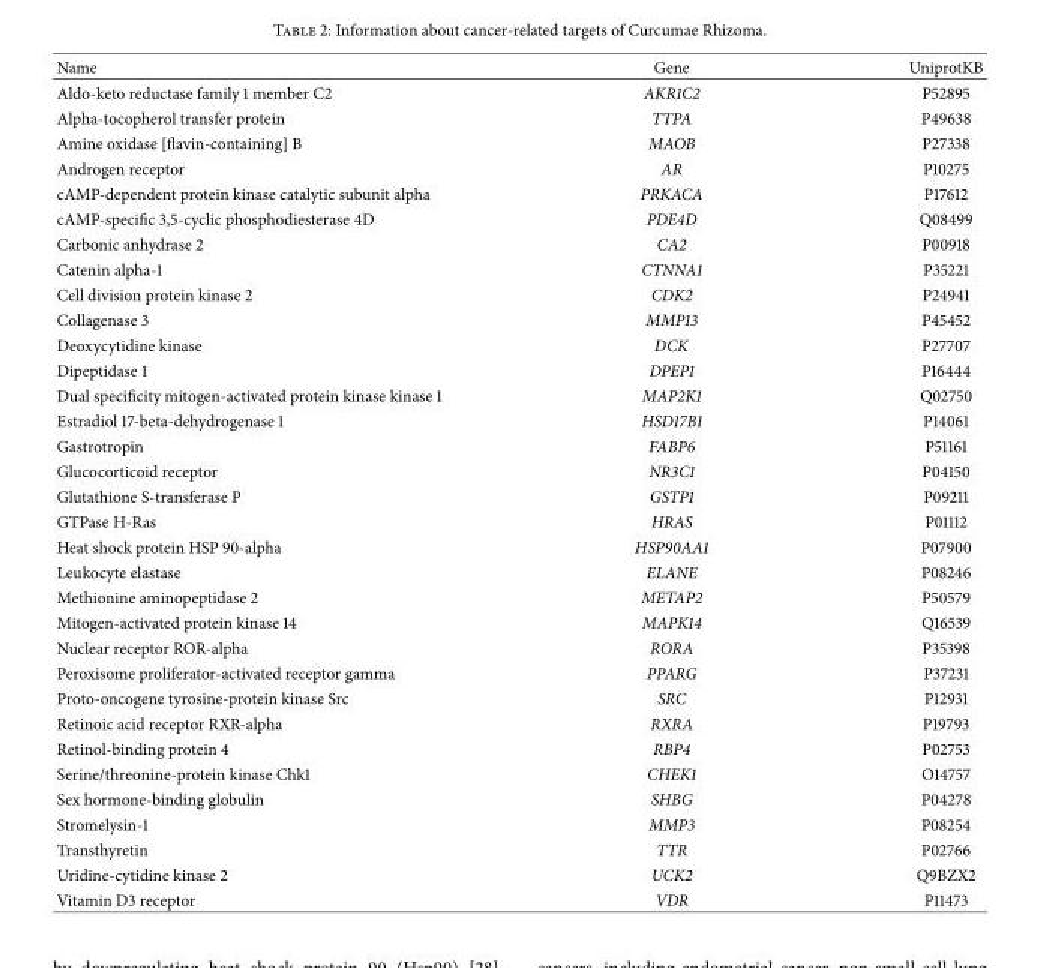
<table><thead><tr><td>Name</td><td>Gene</td><td>UniprotKB</td></tr></thead><tbody><tr><td>Aldo-keto reductase family 1 member C2</td><td>AKR1C2</td><td>P52895</td></tr><tr><td>Alpha-tocopherol transfer protein</td><td>TTPA</td><td>P49638</td></tr><tr><td>Amine oxidase [flavin-containing] B</td><td>MAOB</td><td>P27338</td></tr><tr><td>Androgen receptor</td><td>AR</td><td>P10275</td></tr><tr><td>cAMP-dependent protein kinase catalytic subunit alpha</td><td>PRKACA</td><td>P17612</td></tr><tr><td>cAMP-specific 3,5-cyclic phosphodiesterase 4D</td><td>PDE4D</td><td>Q08499</td></tr><tr><td>Carbonic anhydrase 2</td><td>CA2</td><td>P00918</td></tr><tr><td>Catenin alpha-1</td><td>CTNNA1</td><td>P35221</td></tr><tr><td>Cell division protein kinase 2</td><td>CDK2</td><td>P24941</td></tr><tr><td>Collagenase 3</td><td>MMP13</td><td>P45452</td></tr><tr><td>Deoxycytidine kinase</td><td>DCK</td><td>P27707</td></tr><tr><td>Dipeptidase 1</td><td>DPEP1</td><td>P16444</td></tr><tr><td>Dual specificity mitogen-activated protein kinase kinase 1</td><td>MAP2K1</td><td>Q02750</td></tr><tr><td>Estradiol 17-beta-dehydrogenase 1</td><td>HSD17B1</td><td>P14061</td></tr><tr><td>Gastrotropin</td><td>FABP6</td><td>P51161</td></tr><tr><td>Glucocorticoid receptor</td><td>NR3C1</td><td>P04150</td></tr><tr><td>Glutathione S-transferase P</td><td>GSTP1</td><td>P09211</td></tr><tr><td>GTPase H-Ras</td><td>HRAS</td><td>P01112</td></tr><tr><td>Heat shock protein HSP 90-alpha</td><td>HSP90AA1</td><td>P07900</td></tr><tr><td>Leukocyte elastase</td><td>ELANE</td><td>P08246</td></tr><tr><td>Methionine aminopeptidase 2</td><td>METAP2</td><td>P50579</td></tr><tr><td>Mitogen-activated protein kinase 14</td><td>MAPK14</td><td>Q16539</td></tr><tr><td>Nuclear receptor ROR-alpha</td><td>RORA</td><td>P35398</td></tr><tr><td>Peroxisome proliferator-activated receptor gamma</td><td>PPARG</td><td>P37231</td></tr><tr><td>Proto-oncogene tyrosine-protein kinase Src</td><td>SRC</td><td>P12931</td></tr><tr><td>Retinoic acid receptor RXR-alpha</td><td>RXRA</td><td>P19793</td></tr><tr><td>Retinol-binding protein 4</td><td>RBP4</td><td>P02753</td></tr><tr><td>Serine/threonine-protein kinase Chk1</td><td>CHEK1</td><td>O14757</td></tr><tr><td>Sex hormone-binding globulin</td><td>SHBG</td><td>P04278</td></tr><tr><td>Stromelysin-1</td><td>MMP3</td><td>P08254</td></tr><tr><td>Transthyretin</td><td>TTR</td><td>P02766</td></tr><tr><td>Uridine-cytidine kinase 2</td><td>UCK2</td><td>Q9BZX2</td></tr><tr><td>Vitamin D3 receptor</td><td>VDR</td><td>P11473</td></tr></tbody></table>